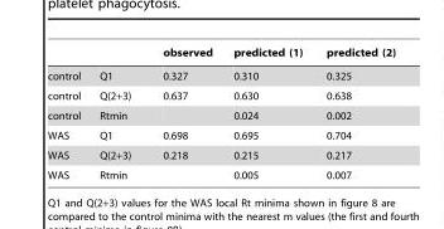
<table><thead><tr><td></td><td></td><td>observed</td><td>predicted (1)</td><td>predicted (2)</td></tr></thead><tbody><tr><td>control</td><td>Q1</td><td>0.327</td><td>0.310</td><td>0.325</td></tr><tr><td>control</td><td>Q(2+3)</td><td>0.637</td><td>0.630</td><td>0.638</td></tr><tr><td>control</td><td>Rtmin</td><td></td><td>0.024</td><td>0.002</td></tr><tr><td>WAS</td><td>Q1</td><td>0.698</td><td>0.695</td><td>0.704</td></tr><tr><td>WAS</td><td>Q(2+3)</td><td>0.218</td><td>0.215</td><td>0.217</td></tr><tr><td>WAS</td><td>Rtmin</td><td></td><td>0.005</td><td>0.007</td></tr></tbody></table>